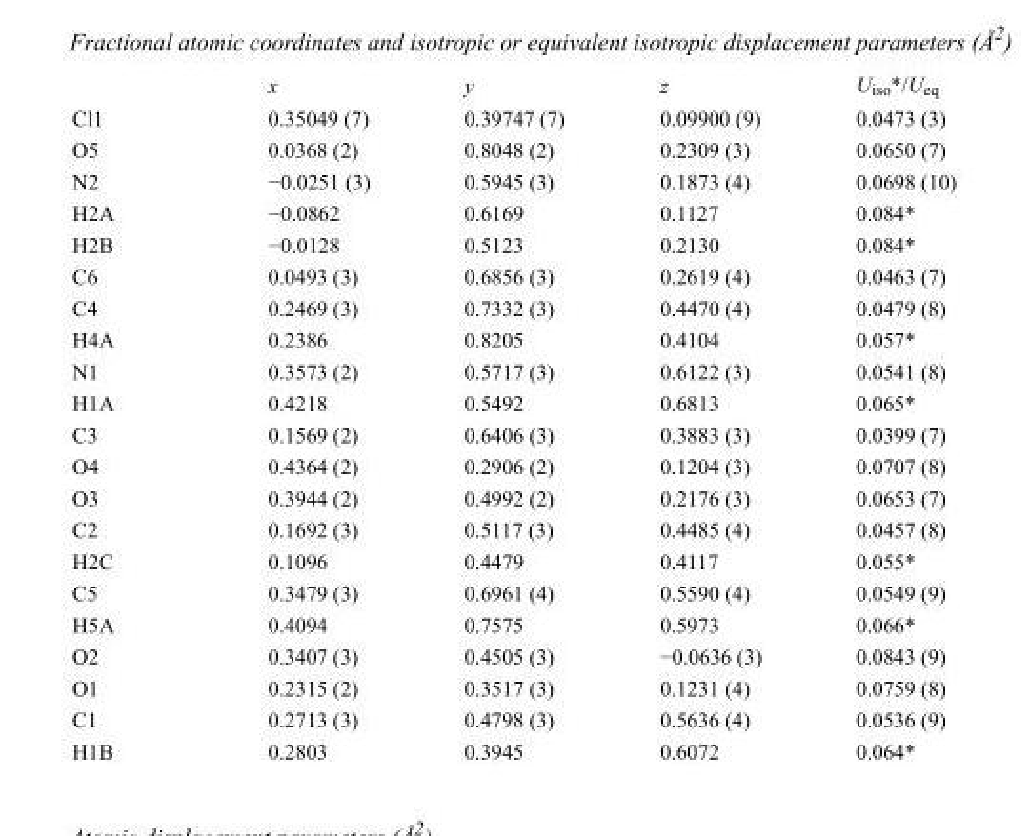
<table><thead><tr><td></td><td>x</td><td>y</td><td>z</td><td>U<sub>iso</sub>*/U<sub>eq</sub></td></tr></thead><tbody><tr><td>Cl1</td><td>0.35049 (7)</td><td>0.39747 (7)</td><td>0.09900 (9)</td><td>0.0473 (3)</td></tr><tr><td>O5</td><td>0.0368 (2)</td><td>0.8048 (2)</td><td>0.2309 (3)</td><td>0.0650 (7)</td></tr><tr><td>N2</td><td>−0.0251 (3)</td><td>0.5945 (3)</td><td>0.1873 (4)</td><td>0.0698 (10)</td></tr><tr><td>H2A</td><td>−0.0862</td><td>0.6169</td><td>0.1127</td><td>0.084*</td></tr><tr><td>H2B</td><td>−0.0128</td><td>0.5123</td><td>0.2130</td><td>0.084*</td></tr><tr><td>C6</td><td>0.0493 (3)</td><td>0.6856 (3)</td><td>0.2619 (4)</td><td>0.0463 (7)</td></tr><tr><td>C4</td><td>0.2469 (3)</td><td>0.7332 (3)</td><td>0.4470 (4)</td><td>0.0479 (8)</td></tr><tr><td>H4A</td><td>0.2386</td><td>0.8205</td><td>0.4104</td><td>0.057*</td></tr><tr><td>N1</td><td>0.3573 (2)</td><td>0.5717 (3)</td><td>0.6122 (3)</td><td>0.0541 (8)</td></tr><tr><td>H1A</td><td>0.4218</td><td>0.5492</td><td>0.6813</td><td>0.065*</td></tr><tr><td>C3</td><td>0.1569 (2)</td><td>0.6406 (3)</td><td>0.3883 (3)</td><td>0.0399 (7)</td></tr><tr><td>O4</td><td>0.4364 (2)</td><td>0.2906 (2)</td><td>0.1204 (3)</td><td>0.0707 (8)</td></tr><tr><td>O3</td><td>0.3944 (2)</td><td>0.4992 (2)</td><td>0.2176 (3)</td><td>0.0653 (7)</td></tr><tr><td>C2</td><td>0.1692 (3)</td><td>0.5117 (3)</td><td>0.4485 (4)</td><td>0.0457 (8)</td></tr><tr><td>H2C</td><td>0.1096</td><td>0.4479</td><td>0.4117</td><td>0.055*</td></tr><tr><td>C5</td><td>0.3479 (3)</td><td>0.6961 (4)</td><td>0.5590 (4)</td><td>0.0549 (9)</td></tr><tr><td>H5A</td><td>0.4094</td><td>0.7575</td><td>0.5973</td><td>0.066*</td></tr><tr><td>O2</td><td>0.3407 (3)</td><td>0.4505 (3)</td><td>−0.0636 (3)</td><td>0.0843 (9)</td></tr><tr><td>O1</td><td>0.2315 (2)</td><td>0.3517 (3)</td><td>0.1231 (4)</td><td>0.0759 (8)</td></tr><tr><td>C1</td><td>0.2713 (3)</td><td>0.4798 (3)</td><td>0.5636 (4)</td><td>0.0536 (9)</td></tr><tr><td>H1B</td><td>0.2803</td><td>0.3945</td><td>0.6072</td><td>0.064*</td></tr></tbody></table>